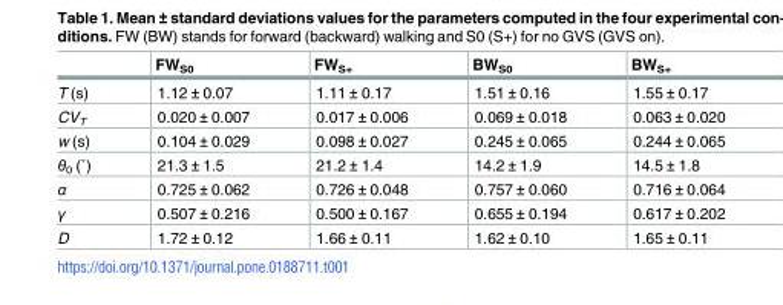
<table><thead><tr><td></td><td>FW<sub>S0</sub></td><td>FW<sub>S+</sub></td><td>BW<sub>S0</sub></td><td>BW<sub>S+</sub></td></tr></thead><tbody><tr><td>T (s)</td><td>1.12 ± 0.07</td><td>1.11 ± 0.17</td><td>1.51 ± 0.16</td><td>1.55 ± 0.17</td></tr><tr><td>CV<sub>T</sub></td><td>0.020 ± 0.007</td><td>0.017 ± 0.006</td><td>0.069 ± 0.018</td><td>0.063 ± 0.020</td></tr><tr><td>w (s)</td><td>0.104 ± 0.029</td><td>0.098 ± 0.027</td><td>0.245 ± 0.065</td><td>0.244 ± 0.065</td></tr><tr><td>θ0 (˚)</td><td>21.3 ± 1.5</td><td>21.2 ± 1.4</td><td>14.2 ± 1.9</td><td>14.5 ± 1.8</td></tr><tr><td>α</td><td>0.725 ± 0.062</td><td>0.726 ± 0.048</td><td>0.757 ± 0.060</td><td>0.716 ± 0.064</td></tr><tr><td>γ</td><td>0.507 ± 0.216</td><td>0.500 ± 0.167</td><td>0.655 ± 0.194</td><td>0.617 ± 0.202</td></tr><tr><td>D</td><td>1.72 ± 0.12</td><td>1.66 ± 0.11</td><td>1.62 ± 0.10</td><td>1.65 ± 0.11</td></tr></tbody></table>